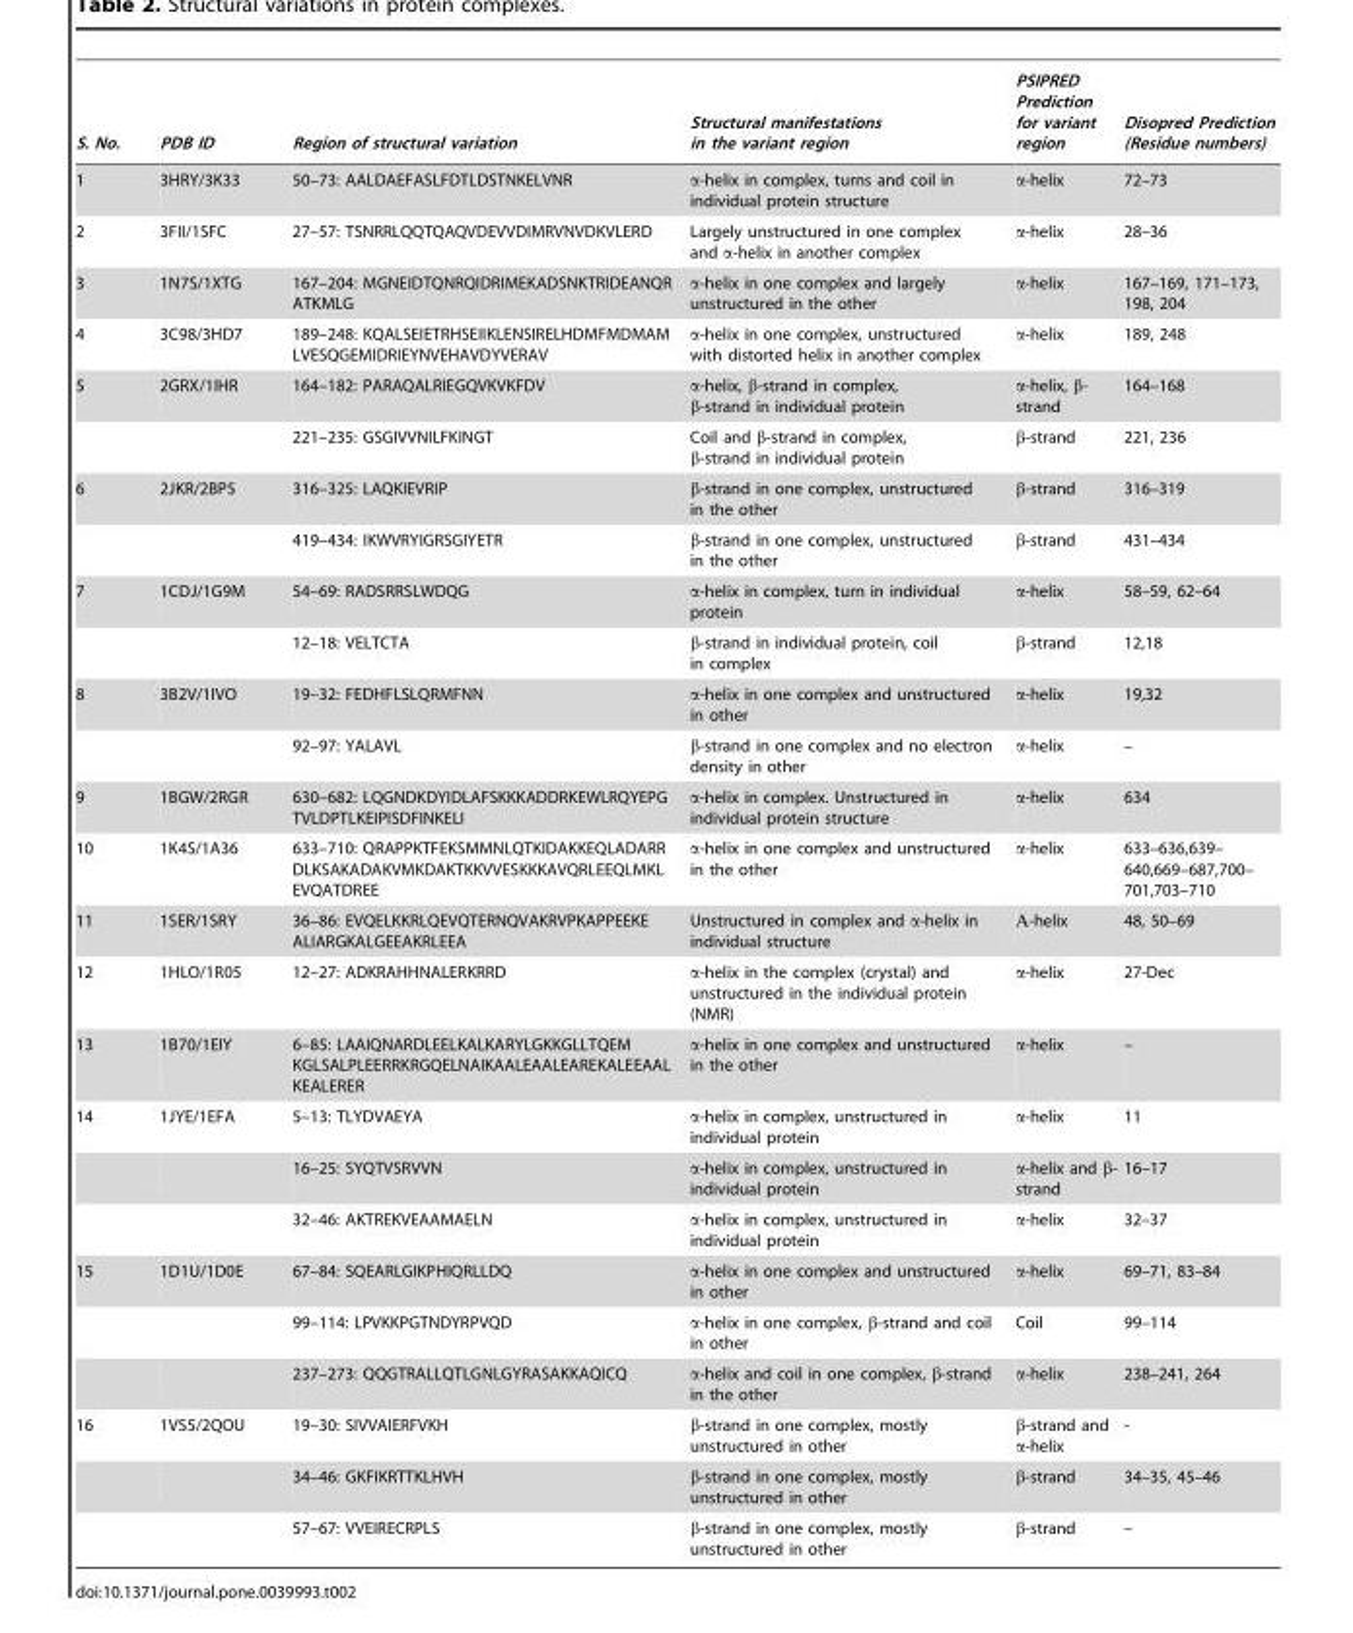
<table><thead><tr><td>S. No.</td><td>PDB ID</td><td>Region of structural variation</td><td>Structural manifestations in the variant region</td><td>PSIPRED Prediction for variant region</td><td>Disopred Prediction (Residue numbers)</td></tr></thead><tbody><tr><td>1</td><td>3HRY/3K33</td><td>50–73: AALDAEFASLFDTLDSTNKELVNR</td><td>α-helix in complex, turns and coil in individual protein structure</td><td>α-helix</td><td>72–73</td></tr><tr><td>2</td><td>3FII/1SFC</td><td>27–57: TSNRRLQQTQAQVDEVVDIMRVNVDKVLERD</td><td>Largely unstructured in one complex and α-helix in another complex</td><td>α-helix</td><td>28–36</td></tr><tr><td>3</td><td>1N7S/1XTG</td><td>167–204: MGNEIDTQNRQIDRIMEKADSNKTRIDEANQR ATKMLG</td><td>α-helix in one complex and largely unstructured in the other</td><td>α-helix</td><td>167–169, 171–173, 198, 204</td></tr><tr><td>4</td><td>3C98/3HD7</td><td>189–248: KQALSEIETRHSEIIKLENSIRELHDMFMDMAM LVESQGEMIDRIEYNVEHAVDYVERAV</td><td>α-helix in one complex, unstructured with distorted helix in another complex</td><td>α-helix</td><td>189, 248</td></tr><tr><td rowspan="2">5</td><td>2GRX/1IHR</td><td>164–182: PARAQALRIEGQVKVKFDV</td><td>α-helix, β-strand in complex, β-strand in individual protein</td><td>α-helix, β- strand</td><td>164–168</td></tr><tr><td></td><td>221–235: GSGIVVNILFKINGT</td><td>Coil and β-strand in complex, β-strand in individual protein</td><td>β-strand</td><td>221, 236</td></tr><tr><td rowspan="2">6</td><td>2JKR/2BP5</td><td>316–325: LAQKIEVRIP</td><td>β-strand in one complex, unstructured in the other</td><td>β-strand</td><td>316–319</td></tr><tr><td></td><td>419–434: IKWVRYIGRSGIYETR</td><td>β-strand in one complex, unstructured in the other</td><td>β-strand</td><td>431–434</td></tr><tr><td rowspan="2">7</td><td>1CDJ/1G9M</td><td>54–69: RADSRRSLWDQG</td><td>α-helix in complex, turn in individual protein</td><td>α-helix</td><td>58–59, 62–64</td></tr><tr><td></td><td>12–18: VELTCTA</td><td>β-strand in individual protein, coil in complex</td><td>β-strand</td><td>12,18</td></tr><tr><td rowspan="2">8</td><td>3B2V/1IVO</td><td>19–32: FEDHFLSLQRMFNN</td><td>α-helix in one complex and unstructured in other</td><td>α-helix</td><td>19,32</td></tr><tr><td></td><td>92–97: YALAVL</td><td>β-strand in one complex and no electron density in other</td><td>α-helix</td><td>–</td></tr><tr><td>9</td><td>1BGW/2RGR</td><td>630–682: LQGNDKDYIDLAFSKKKADDRKEWLRQYEPG TVLDPTLKEIPISDFINKELI</td><td>α-helix in complex. Unstructured in individual protein structure</td><td>α-helix</td><td>634</td></tr><tr><td>10</td><td>1K4S/1A36</td><td>633–710: QRAPPKTFEKSMMNLQTKIDAKKEQLADARR DLKSAKADAKVMKDAKTKKVVESKKKAVQRLEEQLMKL EVQATDREE</td><td>α-helix in one complex and unstructured in the other</td><td>α-helix</td><td>633–636,639– 640,669–687,700– 701,703–710</td></tr><tr><td>11</td><td>1SER/1SRY</td><td>36–86: EVQELKKRLQEVQTERNQVAKRVPKAPPEEKE ALIARGKALGEEAKRLEEA</td><td>Unstructured in complex and α-helix in individual structure</td><td>A-helix</td><td>48, 50–69</td></tr><tr><td>12</td><td>1HLO/1R05</td><td>12–27: ADKRAHHNALERKRRD</td><td>α-helix in the complex (crystal) and unstructured in the individual protein (NMR)</td><td>α-helix</td><td>27-Dec</td></tr><tr><td>13</td><td>1B70/1EIY</td><td>6–85: LAAIQNARDLEELKALKARYLGKKGLLTQEM KGLSALPLEERRKRGQELNAIKAALEAALEAREKALEEAAL KEALERER</td><td>α-helix in one complex and unstructured in the other</td><td>α-helix</td><td>–</td></tr><tr><td rowspan="3">14</td><td>1JYE/1EFA</td><td>5–13: TLYDVAEYA</td><td>α-helix in complex, unstructured in individual protein</td><td>α-helix</td><td>11</td></tr><tr><td></td><td>16–25: SYQTVSRVVN</td><td>α-helix in complex, unstructured in individual protein</td><td>α-helix and β- strand</td><td>16–17</td></tr><tr><td></td><td>32–46: AKTREKVEAAMAELN</td><td>α-helix in complex, unstructured in individual protein</td><td>α-helix</td><td>32–37</td></tr><tr><td rowspan="3">15</td><td>1D1U/1D0E</td><td>67–84: SQEARLGIKPHIQRLLDQ</td><td>α-helix in one complex and unstructured in other</td><td>α-helix</td><td>69–71, 83–84</td></tr><tr><td></td><td>99–114: LPVKKPGTNDYRPVQD</td><td>α-helix in one complex, β-strand and coil in other</td><td>Coil</td><td>99–114</td></tr><tr><td></td><td>237–273: QQGTRALLQTLGNLGYRASAKKAQICQ</td><td>α-helix and coil in one complex, β-strand in the other</td><td>α-helix</td><td>238–241, 264</td></tr><tr><td rowspan="3">16</td><td>1VS5/2QOU</td><td>19–30: SIVVAIERFVKH</td><td>β-strand in one complex, mostly unstructured in other</td><td>β-strand and α-helix</td><td>-</td></tr><tr><td></td><td>34–46: GKFIKRTTKLHVH</td><td>β-strand in one complex, mostly unstructured in other</td><td>β-strand</td><td>34–35, 45–46</td></tr><tr><td></td><td>57–67: VVEIRECRPLS</td><td>β-strand in one complex, mostly unstructured in other</td><td>β-strand</td><td>–</td></tr></tbody></table>